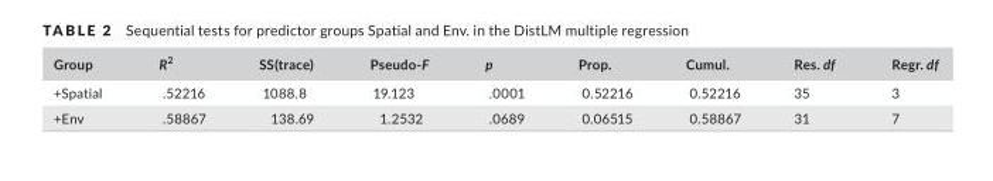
<table><thead><tr><td>Group</td><td>R<sup>2</sup></td><td>SS(trace)</td><td>Pseudo- F</td><td>p</td><td>Prop.</td><td>Cumul.</td><td>Res. df</td><td>Regr. df</td></tr></thead><tbody><tr><td>+Spatial</td><td>.52216</td><td>1088.8</td><td>19.123</td><td>.0001</td><td>0.52216</td><td>0.52216</td><td>35</td><td>3</td></tr><tr><td>+Env</td><td>.58867</td><td>138.69</td><td>1.2532</td><td>.0689</td><td>0.06515</td><td>0.58867</td><td>31</td><td>7</td></tr></tbody></table>